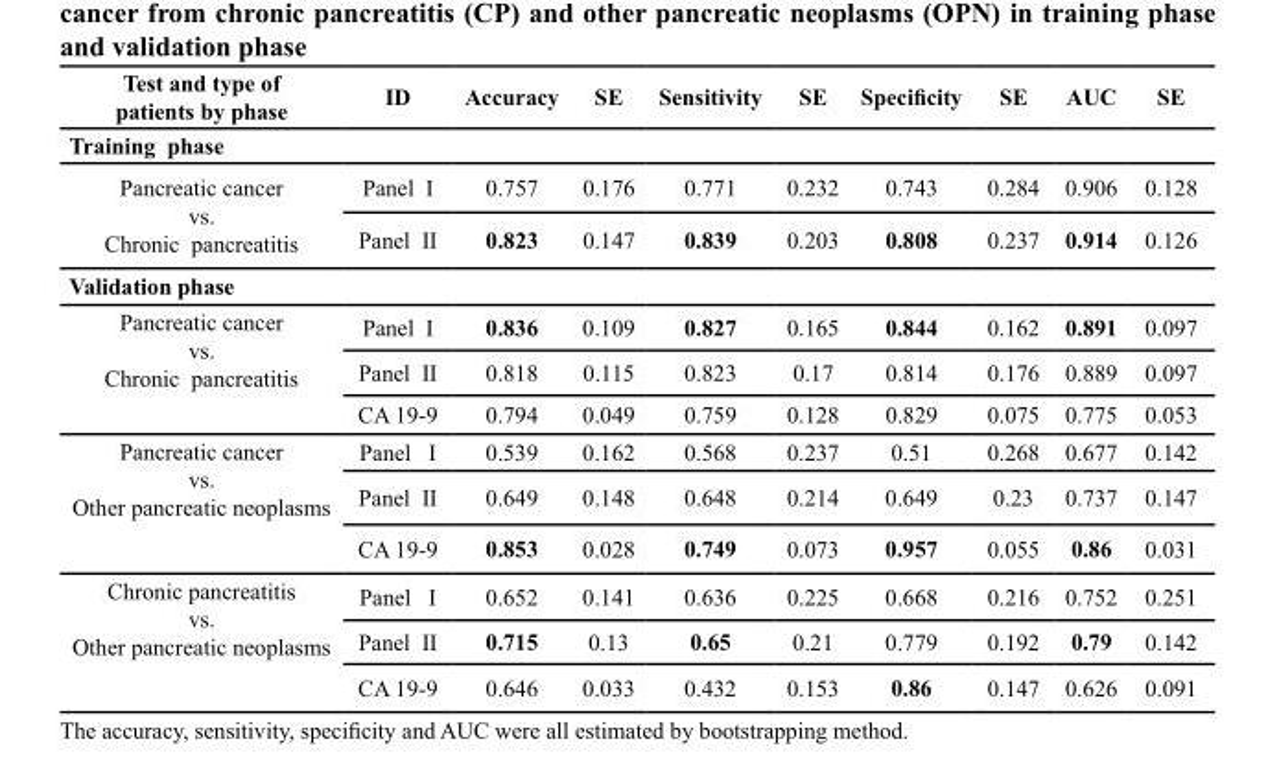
<table><thead><tr><td>test and type of patients by phase</td><td>Id</td><td>Accuracy</td><td>se</td><td>Sensitivity</td><td>se</td><td>Specificity</td><td>se</td><td>Auc</td><td>se</td></tr></thead><tbody><tr><td colspan="10">training phase</td></tr><tr><td rowspan="2">Pancreatic cancer vs. Chronic pancreatitis</td><td>Panel I</td><td>0.757</td><td>0.176</td><td>0.771</td><td>0.232</td><td>0.743</td><td>0.284</td><td>0.906</td><td>0.128</td></tr><tr><td>Panel II</td><td>0.823</td><td>0.147</td><td>0.839</td><td>0.203</td><td>0.808</td><td>0.237</td><td>0.914</td><td>0.126</td></tr><tr><td colspan="10">Validation phase</td></tr><tr><td rowspan="3">Pancreatic cancer vs. Chronic pancreatitis</td><td>Panel I</td><td>0.836</td><td>0.109</td><td>0.827</td><td>0.165</td><td>0.844</td><td>0.162</td><td>0.891</td><td>0.097</td></tr><tr><td>Panel II</td><td>0.818</td><td>0.115</td><td>0.823</td><td>0.17</td><td>0.814</td><td>0.176</td><td>0.889</td><td>0.097</td></tr><tr><td>CA 19-9</td><td>0.794</td><td>0.049</td><td>0.759</td><td>0.128</td><td>0.829</td><td>0.075</td><td>0.775</td><td>0.053</td></tr><tr><td rowspan="3">Pancreatic cancer vs. Other pancreatic neoplasms</td><td>Panel I</td><td>0.539</td><td>0.162</td><td>0.568</td><td>0.237</td><td>0.51</td><td>0.268</td><td>0.677</td><td>0.142</td></tr><tr><td>Panel II</td><td>0.649</td><td>0.148</td><td>0.648</td><td>0.214</td><td>0.649</td><td>0.23</td><td>0.737</td><td>0.147</td></tr><tr><td>CA 19-9</td><td>0.853</td><td>0.028</td><td>0.749</td><td>0.073</td><td>0.957</td><td>0.055</td><td>0.86</td><td>0.031</td></tr><tr><td rowspan="3">Chronic pancreatitis vs. Other pancreatic neoplasms</td><td>Panel I</td><td>0.652</td><td>0.141</td><td>0.636</td><td>0.225</td><td>0.668</td><td>0.216</td><td>0.752</td><td>0.251</td></tr><tr><td>Panel II</td><td>0.715</td><td>0.13</td><td>0.65</td><td>0.21</td><td>0.779</td><td>0.192</td><td>0.79</td><td>0.142</td></tr><tr><td>CA 19-9</td><td>0.646</td><td>0.033</td><td>0.432</td><td>0.153</td><td>0.86</td><td>0.147</td><td>0.626</td><td>0.091</td></tr></tbody></table>